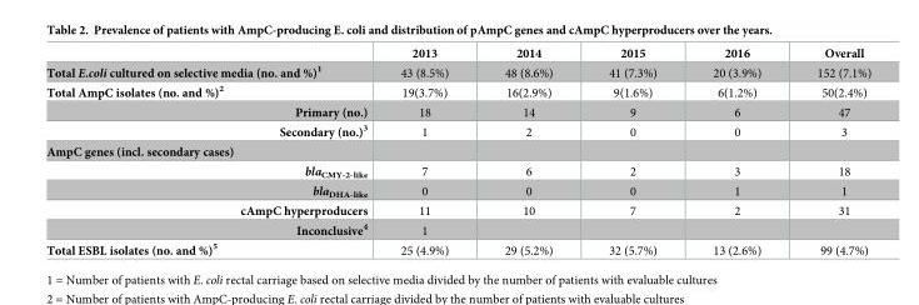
<table><thead><tr><td></td><td>2013</td><td>2014</td><td>2015</td><td>2016</td><td>Overall</td></tr></thead><tbody><tr><td>Total E.coli cultured on selective media (no. and %)<sup>1</sup></td><td>43 (8.5%)</td><td>48 (8.6%)</td><td>41 (7.3%)</td><td>20 (3.9%)</td><td>152 (7.1%)</td></tr><tr><td>Total AmpC isolates (no. and %)<sup>2</sup></td><td>19(3.7%)</td><td>16(2.9%)</td><td>9(1.6%)</td><td>6(1.2%)</td><td>50(2.4%)</td></tr><tr><td>Primary (no.)</td><td>18</td><td>14</td><td>9</td><td>6</td><td>47</td></tr><tr><td>Secondary (no.)<sup>3</sup></td><td>1</td><td>2</td><td>0</td><td>0</td><td>3</td></tr><tr><td colspan="6">AmpC genes (incl. secondary cases)</td></tr><tr><td>bla<sub>CMY-2-like</sub></td><td>7</td><td>6</td><td>2</td><td>3</td><td>18</td></tr><tr><td>bla<sub>DHA-like</sub></td><td>0</td><td>0</td><td>0</td><td>1</td><td>1</td></tr><tr><td>cAmpC hyperproducers</td><td>11</td><td>10</td><td>7</td><td>2</td><td>31</td></tr><tr><td>Inconclusive<sup>4</sup></td><td>1</td><td></td><td></td><td></td><td></td></tr><tr><td>Total ESBL isolates (no. and %)<sup>5</sup></td><td>25 (4.9%)</td><td>29 (5.2%)</td><td>32 (5.7%)</td><td>13 (2.6%)</td><td>99 (4.7%)</td></tr></tbody></table>